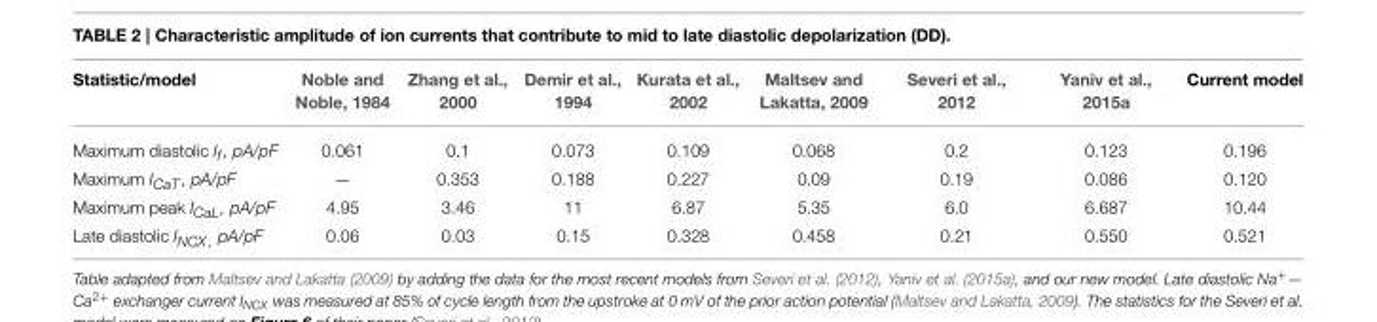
<table><thead><tr><td>Statistic/model</td><td>Noble and Noble, 1984</td><td>Zhang et al., 2000</td><td>Demir et al., 1994</td><td>Kurata et al., 2002</td><td>Maltsev and Lakatta, 2009</td><td>Severi et al., 2012</td><td>Yaniv et al., 2015a</td><td>Current model</td></tr></thead><tbody><tr><td>Maximum diastolic I<sub>f</sub>, pA/pF</td><td>0.061</td><td>0.1</td><td>0.073</td><td>0.109</td><td>0.068</td><td>0.2</td><td>0.123</td><td>0.196</td></tr><tr><td>Maximum I<sub>CaT</sub>, pA/pF</td><td>—</td><td>0.353</td><td>0.188</td><td>0.227</td><td>0.09</td><td>0.19</td><td>0.086</td><td>0.120</td></tr><tr><td>Maximum peak I<sub>CaL</sub>, pA/pF</td><td>4.95</td><td>3.46</td><td>11</td><td>6.87</td><td>5.35</td><td>6.0</td><td>6.687</td><td>10.44</td></tr><tr><td>Late diastolic I<sub>NCX</sub>, pA/pF</td><td>0.06</td><td>0.03</td><td>0.15</td><td>0.328</td><td>0.458</td><td>0.21</td><td>0.550</td><td>0.521</td></tr></tbody></table>